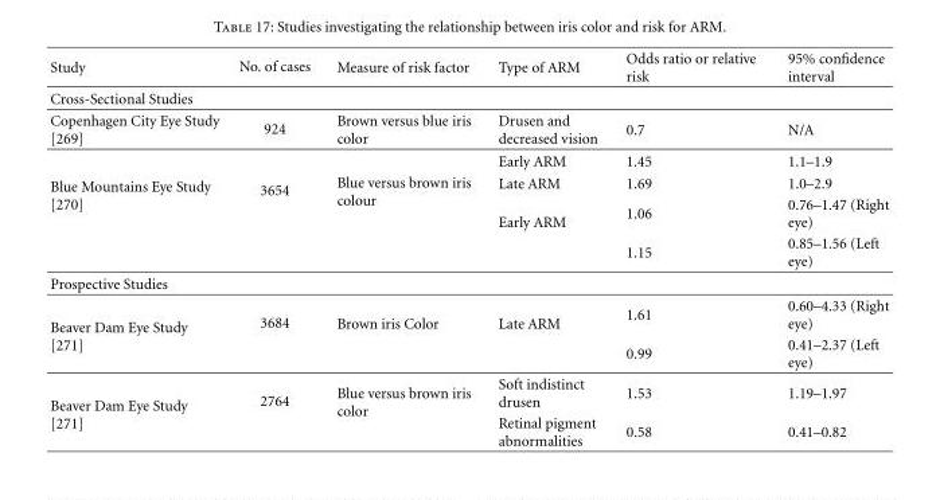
<table><thead><tr><td>Study</td><td>No. of cases</td><td>Measure of risk factor</td><td>Type of ARM</td><td>Odds ratio or relative risk</td><td>95% confidence interval</td></tr></thead><tbody><tr><td colspan="6">Cross-Sectional Studies</td></tr><tr><td>Copenhagen City Eye Study [269]</td><td>924</td><td>Brown versus blue iris color</td><td>Drusen and decreased vision</td><td>0.7</td><td>N/A</td></tr><tr><td rowspan="4">Blue Mountains Eye Study [270]</td><td rowspan="4">3654</td><td rowspan="4">Blue versus brown iris colour</td><td>Early ARM</td><td>1.45</td><td>1.1–1.9</td></tr><tr><td>Late ARM</td><td>1.69</td><td>1.0–2.9</td></tr><tr><td rowspan="2">Early ARM</td><td>1.06</td><td>0.76–1.47 (Right eye)</td></tr><tr><td>1.15</td><td>0.85–1.56 (Left eye)</td></tr><tr><td colspan="6">Prospective Studies</td></tr><tr><td rowspan="2">Beaver Dam Eye Study [271]</td><td rowspan="2">3684</td><td rowspan="2">Brown iris Color</td><td rowspan="2">Late ARM</td><td>1.61</td><td>0.60–4.33 (Right eye)</td></tr><tr><td>0.99</td><td>0.41–2.37 (Left eye)</td></tr><tr><td rowspan="2">Beaver Dam Eye Study [271]</td><td rowspan="2">2764</td><td rowspan="2">Blue versus brown iris color</td><td>Soft indistinct drusen</td><td>1.53</td><td>1.19–1.97</td></tr><tr><td>Retinal pigment abnormalities</td><td>0.58</td><td>0.41–0.82</td></tr></tbody></table>